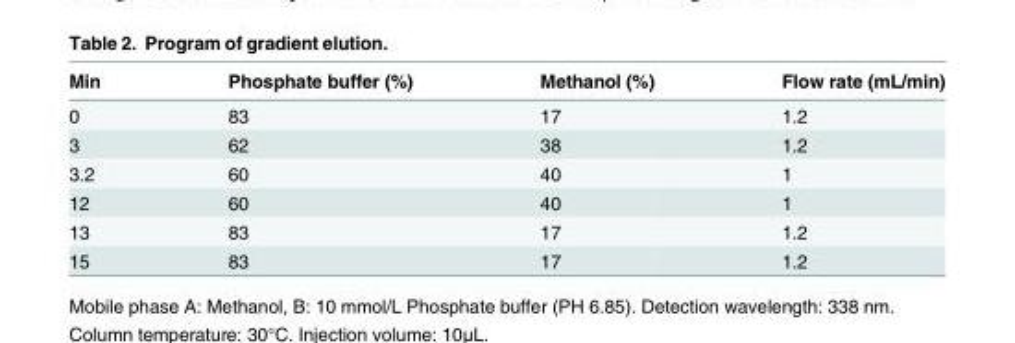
<table><thead><tr><td>Min</td><td>Phosphate buffer (%)</td><td>Methanol (%)</td><td>Flow rate (mL/min)</td></tr></thead><tbody><tr><td>0</td><td>83</td><td>17</td><td>1.2</td></tr><tr><td>3</td><td>62</td><td>38</td><td>1.2</td></tr><tr><td>3.2</td><td>60</td><td>40</td><td>1</td></tr><tr><td>12</td><td>60</td><td>40</td><td>1</td></tr><tr><td>13</td><td>83</td><td>17</td><td>1.2</td></tr><tr><td>15</td><td>83</td><td>17</td><td>1.2</td></tr></tbody></table>